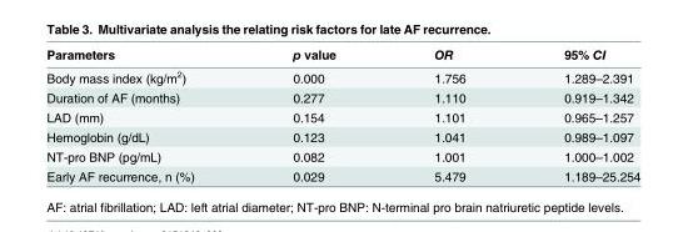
<table><thead><tr><td>Parameters</td><td>p value</td><td>OR</td><td>95% CI</td></tr></thead><tbody><tr><td>Body mass index (kg/m<sup>2</sup>)</td><td>0.000</td><td>1.756</td><td>1.289–2.391</td></tr><tr><td>Duration of AF (months)</td><td>0.277</td><td>1.110</td><td>0.919–1.342</td></tr><tr><td>LAD (mm)</td><td>0.154</td><td>1.101</td><td>0.965–1.257</td></tr><tr><td>Hemoglobin (g/dL)</td><td>0.123</td><td>1.041</td><td>0.989–1.097</td></tr><tr><td>NT-pro BNP (pg/mL)</td><td>0.082</td><td>1.001</td><td>1.000–1.002</td></tr><tr><td>Early AF recurrence, n (%)</td><td>0.029</td><td>5.479</td><td>1.189–25.254</td></tr></tbody></table>